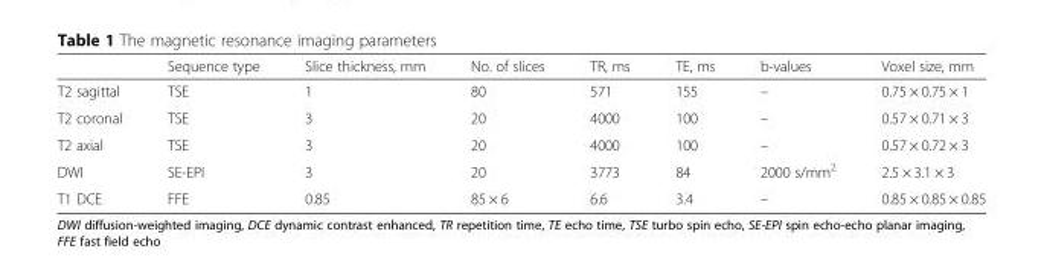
<table><thead><tr><td></td><td>Sequence type</td><td>Slice thickness, mm</td><td>No. of slices</td><td>TR, ms</td><td>TE, ms</td><td>b-values</td><td>Voxel size, mm</td></tr></thead><tbody><tr><td>T2 sagittal</td><td>TSE</td><td>1</td><td>80</td><td>571</td><td>155</td><td>–</td><td>0.75 × 0.75 × 1</td></tr><tr><td>T2 coronal</td><td>TSE</td><td>3</td><td>20</td><td>4000</td><td>100</td><td>–</td><td>0.57 × 0.71 × 3</td></tr><tr><td>T2 axial</td><td>TSE</td><td>3</td><td>20</td><td>4000</td><td>100</td><td>–</td><td>0.57 × 0.72 × 3</td></tr><tr><td>DWI</td><td>SE-EPI</td><td>3</td><td>20</td><td>3773</td><td>84</td><td>2000 s/mm<sup>2</sup></td><td>2.5 × 3.1 × 3</td></tr><tr><td>T1 DCE</td><td>FFE</td><td>0.85</td><td>85 × 6</td><td>6.6</td><td>3.4</td><td>–</td><td>0.85 × 0.85 × 0.85</td></tr></tbody></table>